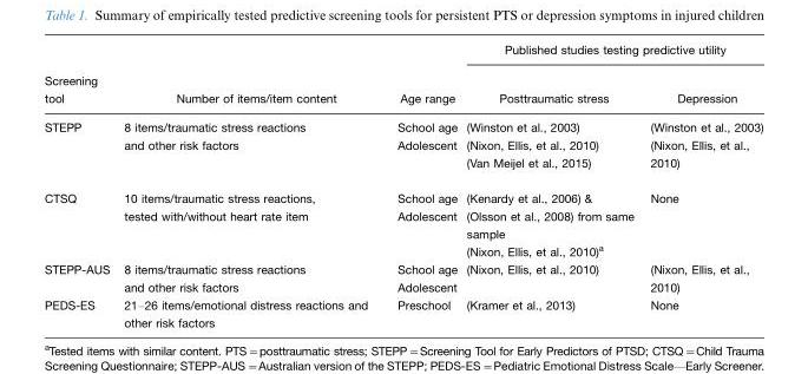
<table><thead><tr><td rowspan="2">Screening tool</td><td rowspan="2">Number of items/item content</td><td rowspan="2">Age range</td><td colspan="2">Published studies testing predictive utility</td></tr><tr><td>Posttraumatic stress</td><td>Depression</td></tr></thead><tbody><tr><td>STEPP</td><td>8 items/traumatic stress reactions and other risk factors</td><td>School age Adolescent</td><td>(Winston et al., 2003) (Nixon, Ellis, et al., 2010) (Van Meijel et al., 2015)</td><td>(Winston et al., 2003) (Nixon, Ellis, et al., 2010)</td></tr><tr><td>CTSQ</td><td>10 items/traumatic stress reactions, tested with/without heart rate item</td><td>School age Adolescent</td><td>(Kenardy et al., 2006) &amp; (Olsson et al., 2008) from same sample (Nixon, Ellis, et al., 2010)<sup>a</sup></td><td>None</td></tr><tr><td>STEPP-AUS</td><td>8 items/traumatic stress reactions and other risk factors</td><td>School age Adolescent</td><td>(Nixon, Ellis, et al., 2010)</td><td>(Nixon, Ellis, et al., 2010)</td></tr><tr><td>PEDS-ES</td><td>21–26 items/emotional distress reactions and other risk factors</td><td>Preschool</td><td>(Kramer et al., 2013)</td><td>None</td></tr></tbody></table>